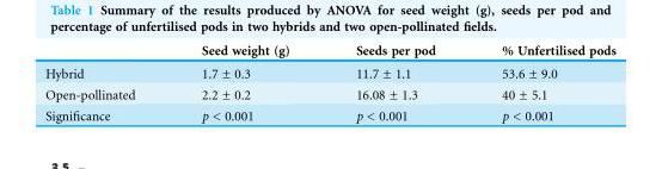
<table><thead><tr><td></td><td>Seed weight (g)</td><td>Seeds per pod</td><td>% Unfertilised pods</td></tr></thead><tbody><tr><td>Hybrid</td><td>1.7 ± 0.3</td><td>11.7 ± 1.1</td><td>53.6 ± 9.0</td></tr><tr><td>Open-pollinated</td><td>2.2 ± 0.2</td><td>16.08 ± 1.3</td><td>40 ± 5.1</td></tr><tr><td>Significance</td><td>p &lt; 0.001</td><td>p &lt; 0.001</td><td>p &lt; 0.001</td></tr></tbody></table>